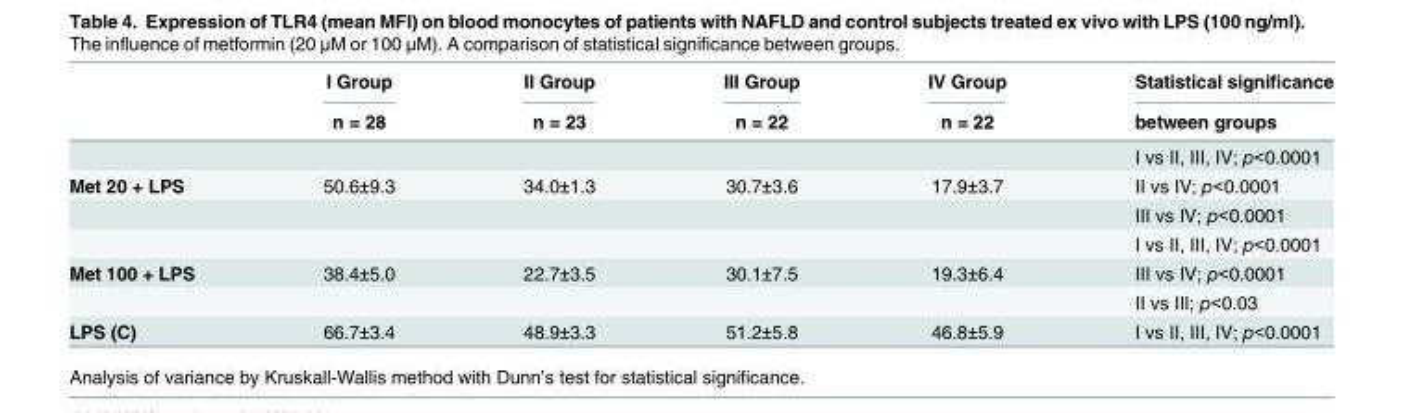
<table><thead><tr><td rowspan="2"></td><td rowspan="2">I Group n = 28</td><td rowspan="2">II Group n = 23</td><td rowspan="2">III Group n = 22</td><td rowspan="2">IV Group n = 22</td><td rowspan="2">Statistical significance between groups</td></tr><tr></tr></thead><tbody><tr><td></td><td></td><td></td><td></td><td></td><td>I vs II, III, IV; p&lt;0.0001</td></tr><tr><td rowspan="3">Met 20 + LPS</td><td>50.6±9.3</td><td>34.0±1.3</td><td>30.7±3.6</td><td>17.9±3.7</td><td>II vs IV; p&lt;0.0001</td></tr><tr><td></td><td></td><td></td><td></td><td>III vs IV; p&lt;0.0001</td></tr><tr><td></td><td></td><td></td><td></td><td>I vs II, III, IV; p&lt;0.0001</td></tr><tr><td rowspan="2">Met 100 + LPS</td><td>38.4±5.0</td><td>22.7±3.5</td><td>30.1±7.5</td><td>19.3±6.4</td><td>III vs IV; p&lt;0.0001</td></tr><tr><td></td><td></td><td></td><td></td><td>II vs III; p&lt;0.03</td></tr><tr><td>LPS (C)</td><td>66.7±3.4</td><td>48.9±3.3</td><td>51.2±5.8</td><td>46.8±5.9</td><td>I vs II, III, IV; p&lt;0.0001</td></tr></tbody></table>